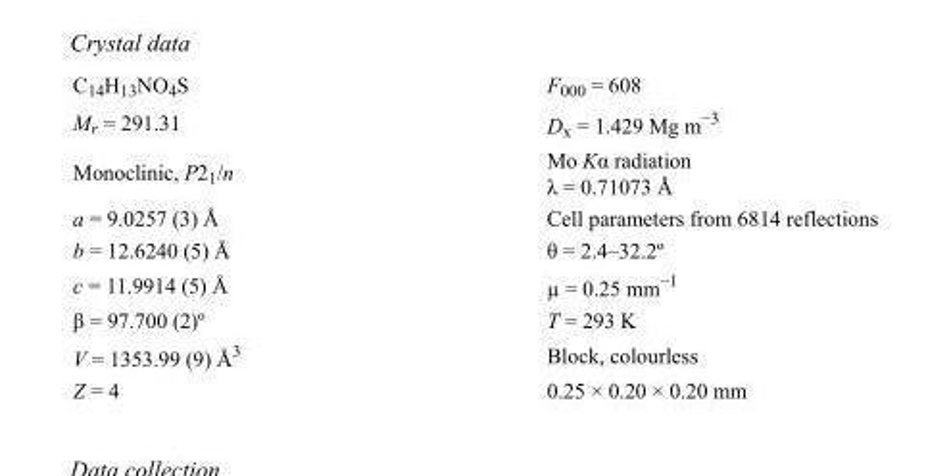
<table><tbody><tr><td>C<sub>14</sub>H<sub>13</sub>NO<sub>4</sub>S</td><td>F000 = 608</td></tr><tr><td>M<sub>r</sub> = 291.31</td><td>D<sub>x</sub> = 1.429 Mg m<sup>−3</sup></td></tr><tr><td>Monoclinic, P2<sub>1</sub>/n</td><td>Mo Kα radiation λ = 0.71073 Å</td></tr><tr><td>a = 9.0257 (3) Å</td><td>Cell parameters from 6814 reflections</td></tr><tr><td>b = 12.6240 (5) Å</td><td>θ = 2.4–32.2º</td></tr><tr><td>c = 11.9914 (5) Å</td><td>µ = 0.25 mm<sup>−1</sup></td></tr><tr><td>β = 97.700 (2)º</td><td>T = 293 K</td></tr><tr><td>V = 1353.99 (9) Å<sup>3</sup></td><td>Block, colourless</td></tr><tr><td>Z = 4</td><td>0.25 × 0.20 × 0.20 mm</td></tr></tbody></table>